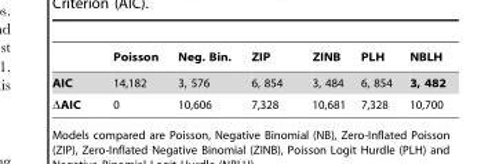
<table><thead><tr><td></td><td>Poisson</td><td>Neg. Bin.</td><td>ZIP</td><td>ZINB</td><td>PLH</td><td>NBLH</td></tr></thead><tbody><tr><td>AIC</td><td>14,182</td><td>3, 576</td><td>6, 854</td><td>3, 484</td><td>6, 854</td><td>3, 482</td></tr><tr><td>DAIC</td><td>0</td><td>10,606</td><td>7,328</td><td>10,681</td><td>7,328</td><td>10,700</td></tr></tbody></table>